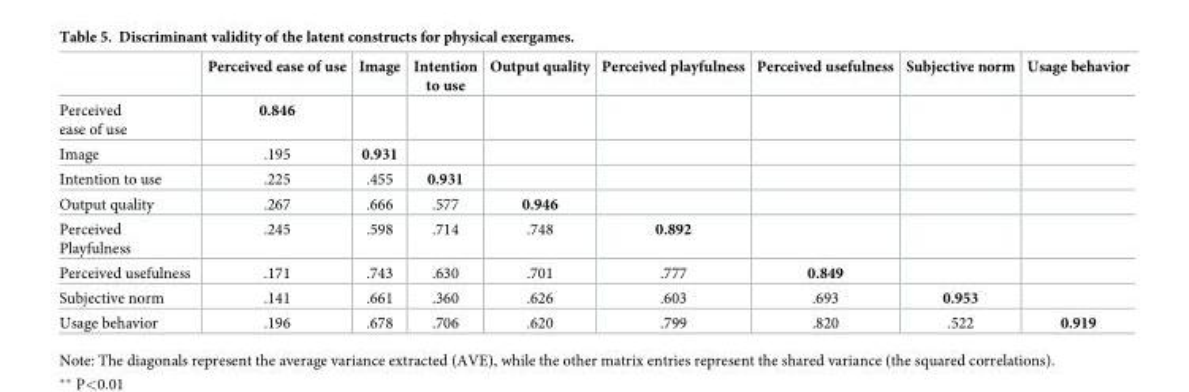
<table><thead><tr><td></td><td>Perceived ease of use</td><td>Image</td><td>Intention to use</td><td>Output quality</td><td>Perceived playfulness</td><td>Perceived usefulness</td><td>Subjective norm</td><td>Usage behavior</td></tr></thead><tbody><tr><td>Perceived ease of use</td><td>0.846</td><td></td><td></td><td></td><td></td><td></td><td></td><td></td></tr><tr><td>Image</td><td>.195</td><td>0.931</td><td></td><td></td><td></td><td></td><td></td><td></td></tr><tr><td>Intention to use</td><td>.225</td><td>.455</td><td>0.931</td><td></td><td></td><td></td><td></td><td></td></tr><tr><td>Output quality</td><td>.267</td><td>.666</td><td>.577</td><td>0.946</td><td></td><td></td><td></td><td></td></tr><tr><td>Perceived Playfulness</td><td>.245</td><td>.598</td><td>.714</td><td>.748</td><td>0.892</td><td></td><td></td><td></td></tr><tr><td>Perceived usefulness</td><td>.171</td><td>.743</td><td>.630</td><td>.701</td><td>.777</td><td>0.849</td><td></td><td></td></tr><tr><td>Subjective norm</td><td>.141</td><td>.661</td><td>.360</td><td>.626</td><td>.603</td><td>.693</td><td>0.953</td><td></td></tr><tr><td>Usage behavior</td><td>.196</td><td>.678</td><td>.706</td><td>.620</td><td>.799</td><td>.820</td><td>.522</td><td>0.919</td></tr></tbody></table>